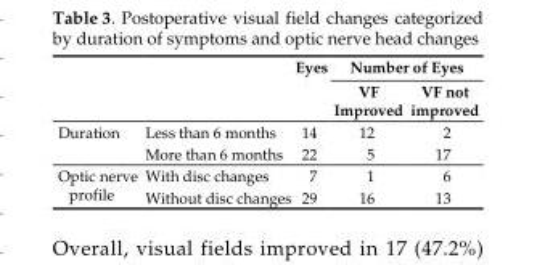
<table><thead><tr><td rowspan="2"></td><td rowspan="2"></td><td rowspan="2">Eyes</td><td colspan="2">Number of Eyes</td></tr><tr><td>VF Improved</td><td>VF not improved</td></tr></thead><tbody><tr><td rowspan="2">Duration</td><td>Less than 6 months</td><td>14</td><td>12</td><td>2</td></tr><tr><td>More than 6 months</td><td>22</td><td>5</td><td>17</td></tr><tr><td rowspan="2">Optic nerve profile</td><td>With disc changes</td><td>7</td><td>1</td><td>6</td></tr><tr><td>Without disc changes</td><td>29</td><td>16</td><td>13</td></tr></tbody></table>